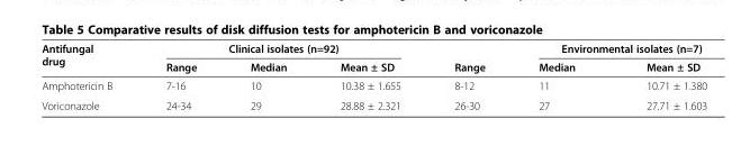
<table><thead><tr><td rowspan="2">Antifungal drug</td><td colspan="3">Clinical isolates (n=92)</td><td rowspan="2">Range</td><td colspan="2">Environmental isolates (n=7)</td></tr><tr><td>Range</td><td>Median</td><td>Mean ± SD</td><td>Median</td><td>Mean ± SD</td></tr></thead><tbody><tr><td>Amphotericin B</td><td>7-16</td><td>10</td><td>10.38 ± 1.655</td><td>8-12</td><td>11</td><td>10.71 ± 1.380</td></tr><tr><td>Voriconazole</td><td>24-34</td><td>29</td><td>28.88 ± 2.321</td><td>26-30</td><td>27</td><td>27.71 ± 1.603</td></tr></tbody></table>